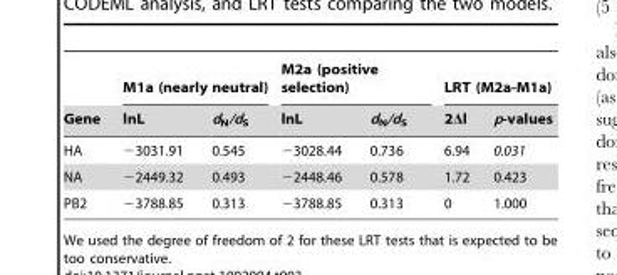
<table><thead><tr><td rowspan="2">Gene</td><td colspan="2">M1a (nearly neutral)</td><td colspan="2">M2a (positive selection)</td><td colspan="2">LRT (M2a-M1a)</td></tr><tr><td>lnL</td><td>d<sub>N</sub>/d<sub>S</sub></td><td>lnL</td><td>d<sub>N</sub>/d<sub>S</sub></td><td>2Δl</td><td>p-values</td></tr></thead><tbody><tr><td>HA</td><td>−3031.91</td><td>0.545</td><td>−3028.44</td><td>0.736</td><td>6.94</td><td>0.031</td></tr><tr><td>NA</td><td>−2449.32</td><td>0.493</td><td>−2448.46</td><td>0.578</td><td>1.72</td><td>0.423</td></tr><tr><td>PB2</td><td>−3788.85</td><td>0.313</td><td>−3788.85</td><td>0.313</td><td>0</td><td>1.000</td></tr></tbody></table>